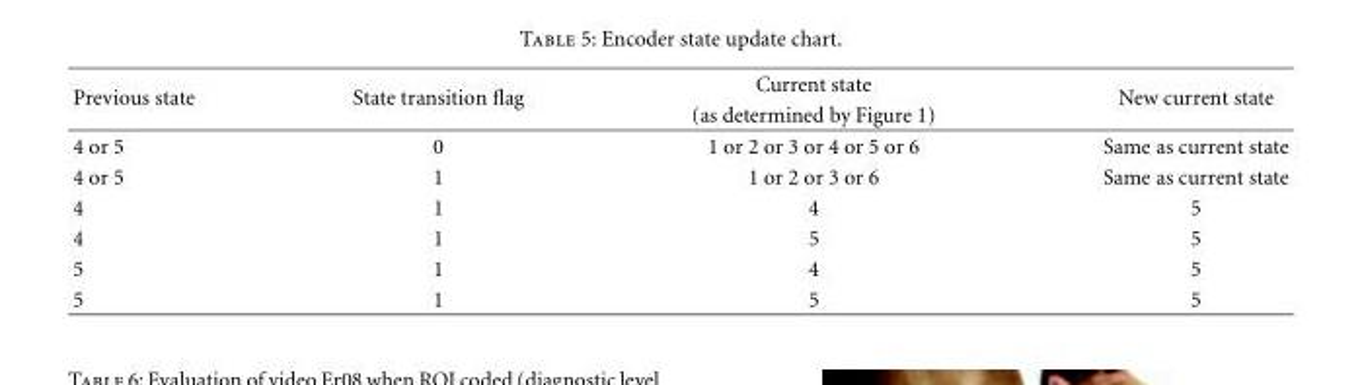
<table><thead><tr><td rowspan="2">Previous state</td><td rowspan="2">State transition flag</td><td rowspan="2">Current state (as determined by Figure 1)</td><td rowspan="2">New current state</td></tr><tr></tr></thead><tbody><tr><td>4 or 5</td><td>0</td><td>1 or 2 or 3 or 4 or 5 or 6</td><td>Same as current state</td></tr><tr><td>4 or 5</td><td>1</td><td>1 or 2 or 3 or 6</td><td>Same as current state</td></tr><tr><td>4</td><td>1</td><td>4</td><td>5</td></tr><tr><td>4</td><td>1</td><td>5</td><td>5</td></tr><tr><td>5</td><td>1</td><td>4</td><td>5</td></tr><tr><td>5</td><td>1</td><td>5</td><td>5</td></tr></tbody></table>